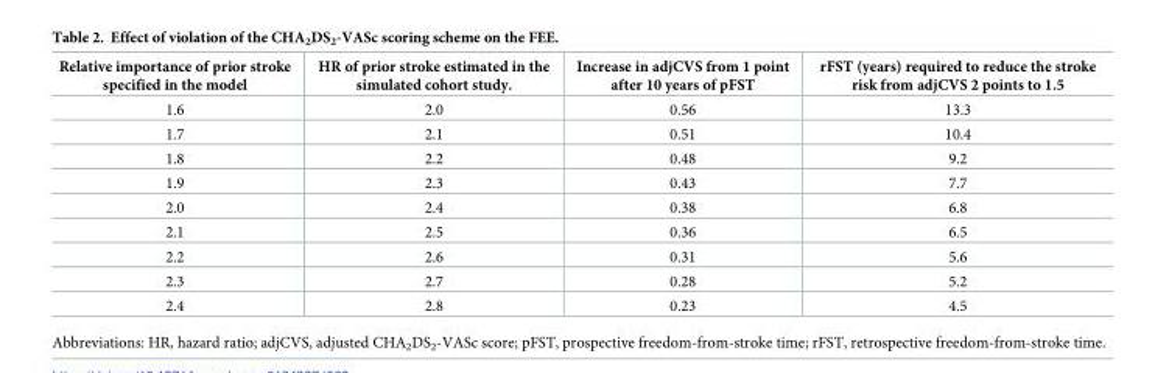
<table><thead><tr><td>Relative importance of prior stroke specified in the model</td><td>HR of prior stroke estimated in the simulated cohort study.</td><td>Increase in adjCVS from 1 point after 10 years of pFST</td><td>rFST (years) required to reduce the stroke risk from adjCVS 2 points to 1.5</td></tr></thead><tbody><tr><td>1.6</td><td>2.0</td><td>0.56</td><td>13.3</td></tr><tr><td>1.7</td><td>2.1</td><td>0.51</td><td>10.4</td></tr><tr><td>1.8</td><td>2.2</td><td>0.48</td><td>9.2</td></tr><tr><td>1.9</td><td>2.3</td><td>0.43</td><td>7.7</td></tr><tr><td>2.0</td><td>2.4</td><td>0.38</td><td>6.8</td></tr><tr><td>2.1</td><td>2.5</td><td>0.36</td><td>6.5</td></tr><tr><td>2.2</td><td>2.6</td><td>0.31</td><td>5.6</td></tr><tr><td>2.3</td><td>2.7</td><td>0.28</td><td>5.2</td></tr><tr><td>2.4</td><td>2.8</td><td>0.23</td><td>4.5</td></tr></tbody></table>